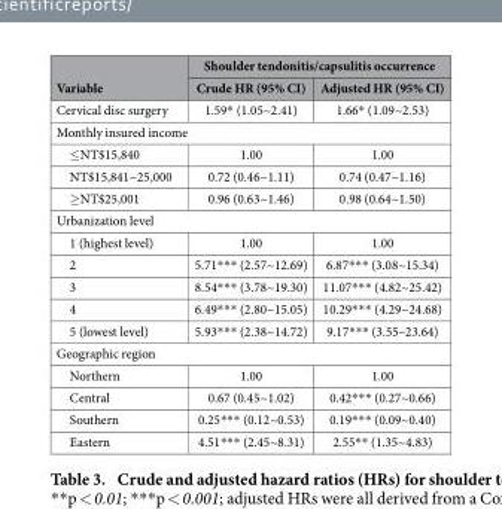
<table><thead><tr><td rowspan="2">Variable</td><td colspan="2">Shoulder tendonitis/capsulitis occurrence</td></tr><tr><td>Crude HR (95% CI)</td><td>Adjusted HR (95% CI)</td></tr></thead><tbody><tr><td>Cervical disc surgery</td><td>1.59* (1.05~2.41)</td><td>1.66* (1.09~2.53)</td></tr><tr><td colspan="3">Monthly insured income</td></tr><tr><td>≤ NT$15,840</td><td>1.00</td><td>1.00</td></tr><tr><td>NT$15,841~25,000</td><td>0.72 (0.46~1.11)</td><td>0.74 (0.47~1.16)</td></tr><tr><td>≥ NT$25,001</td><td>0.96 (0.63~1.46)</td><td>0.98 (0.64~1.50)</td></tr><tr><td colspan="3">Urbanization level</td></tr><tr><td>1 (highest level)</td><td>1.00</td><td>1.00</td></tr><tr><td>2</td><td>5.71* * * (2.57~12.69)</td><td>6.87* * * (3.08~15.34)</td></tr><tr><td>3</td><td>8.54* * * (3.78~19.30)</td><td>11.07* * * (4.82~25.42)</td></tr><tr><td>4</td><td>6.49* * * (2.80~15.05)</td><td>10.29* * * (4.29~24.68)</td></tr><tr><td>5 (lowest level)</td><td>5.93* * * (2.38~14.72)</td><td>9.17* * * (3.55–23.64)</td></tr><tr><td colspan="3">Geographic region</td></tr><tr><td>Northern</td><td>1.00</td><td>1.00</td></tr><tr><td>Central</td><td>0.67 (0.45~1.02)</td><td>0.42* * * (0.27~0.66)</td></tr><tr><td>Southern</td><td>0.25* * * (0.12~0.53)</td><td>0.19* * * (0.09~0.40)</td></tr><tr><td>Eastern</td><td>4.51* * * (2.45~8.31)</td><td>2.55* * (1.35~4.83)</td></tr></tbody></table>